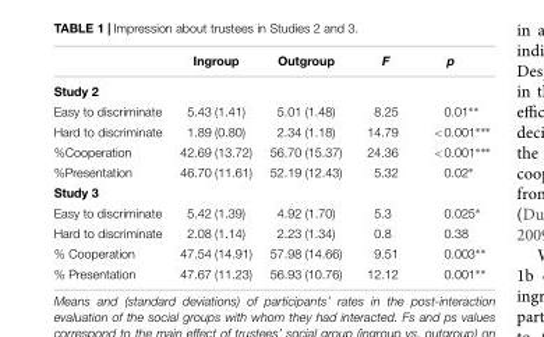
<table><thead><tr><td></td><td>Ingroup</td><td>Outgroup</td><td>F</td><td>p</td></tr></thead><tbody><tr><td colspan="5">Study 2</td></tr><tr><td>Easy to discriminate</td><td>5.43 (1.41)</td><td>5.01 (1.48)</td><td>8.25</td><td>0.01∗∗</td></tr><tr><td>Hard to discriminate</td><td>1.89 (0.80)</td><td>2.34 (1.18)</td><td>14.79</td><td>&lt;0.001∗∗∗</td></tr><tr><td>%Cooperation</td><td>42.69 (13.72)</td><td>56.70 (15.37)</td><td>24.36</td><td>&lt;0.001∗∗∗</td></tr><tr><td>%Presentation</td><td>46.70 (11.61)</td><td>52.19 (12.43)</td><td>5.32</td><td>0.02∗</td></tr><tr><td colspan="5">Study 3</td></tr><tr><td>Easy to discriminate</td><td>5.42 (1.39)</td><td>4.92 (1.70)</td><td>5.3</td><td>0.025∗</td></tr><tr><td>Hard to discriminate</td><td>2.08 (1.14)</td><td>2.23 (1.34)</td><td>0.8</td><td>0.38</td></tr><tr><td>% Cooperation</td><td>47.54 (14.91)</td><td>57.98 (14.66)</td><td>9.51</td><td>0.003∗∗</td></tr><tr><td>% Presentation</td><td>47.67 (11.23)</td><td>56.93 (10.76)</td><td>12.12</td><td>0.001∗∗</td></tr></tbody></table>